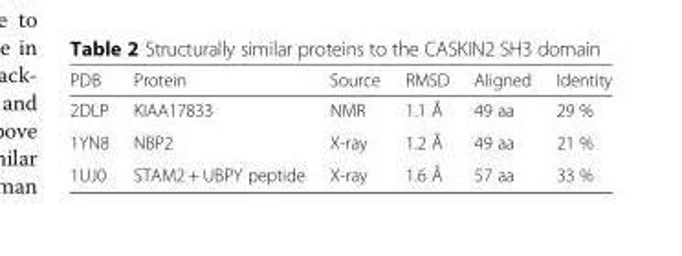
<table><thead><tr><td>PDB</td><td>Protein</td><td>Source</td><td>RMSD</td><td>Aligned</td><td>Identity</td></tr></thead><tbody><tr><td>2DLP</td><td>KIAA17833</td><td>NMR</td><td>1.1 Å</td><td>49 aa</td><td>29 %</td></tr><tr><td>1YN8</td><td>NBP2</td><td>X-ray</td><td>1.2 Å</td><td>49 aa</td><td>21 %</td></tr><tr><td>1UJ0</td><td>STAM2 + UBPY peptide</td><td>X-ray</td><td>1.6 Å</td><td>57 aa</td><td>33 %</td></tr></tbody></table>